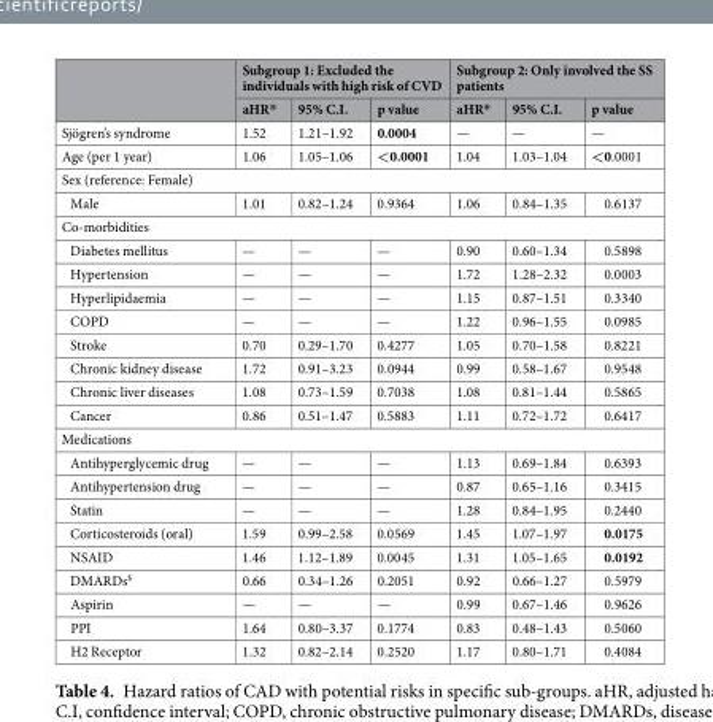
<table><thead><tr><td rowspan="2"></td><td colspan="3">Subgroup 1: Excluded the individuals with high risk of CVD</td><td colspan="3">Subgroup 2: Only involved the SS patients</td></tr><tr><td>aHR*</td><td>95% C.I.</td><td>p value</td><td>aHR*</td><td>95% C.I.</td><td>p value</td></tr></thead><tbody><tr><td>Sjögren’s syndrome</td><td>1.52</td><td>1.21–1.92</td><td>0.0004</td><td>—</td><td>—</td><td>—</td></tr><tr><td>Age (per 1 year)</td><td>1.06</td><td>1.05–1.06</td><td>&lt;0.0001</td><td>1.04</td><td>1.03–1.04</td><td>&lt;0.0001</td></tr><tr><td colspan="7">Sex (reference: Female)</td></tr><tr><td>Male</td><td>1.01</td><td>0.82–1.24</td><td>0.9364</td><td>1.06</td><td>0.84–1.35</td><td>0.6137</td></tr><tr><td colspan="7">Co-morbidities</td></tr><tr><td>Diabetes mellitus</td><td>—</td><td>—</td><td>—</td><td>0.90</td><td>0.60–1.34</td><td>0.5898</td></tr><tr><td>Hypertension</td><td>—</td><td>—</td><td>—</td><td>1.72</td><td>1.28–2.32</td><td>0.0003</td></tr><tr><td>Hyperlipidaemia</td><td>—</td><td>—</td><td>—</td><td>1.15</td><td>0.87–1.51</td><td>0.3340</td></tr><tr><td>COPD</td><td>—</td><td>—</td><td>—</td><td>1.22</td><td>0.96–1.55</td><td>0.0985</td></tr><tr><td>Stroke</td><td>0.70</td><td>0.29–1.70</td><td>0.4277</td><td>1.05</td><td>0.70–1.58</td><td>0.8221</td></tr><tr><td>Chronic kidney disease</td><td>1.72</td><td>0.91–3.23</td><td>0.0944</td><td>0.99</td><td>0.58–1.67</td><td>0.9548</td></tr><tr><td>Chronic liver diseases</td><td>1.08</td><td>0.73–1.59</td><td>0.7038</td><td>1.08</td><td>0.81–1.44</td><td>0.5865</td></tr><tr><td>Cancer</td><td>0.86</td><td>0.51–1.47</td><td>0.5883</td><td>1.11</td><td>0.72–1.72</td><td>0.6417</td></tr><tr><td colspan="7">Medications</td></tr><tr><td>Antihyperglycemic drug</td><td>—</td><td>—</td><td>—</td><td>1.13</td><td>0.69–1.84</td><td>0.6393</td></tr><tr><td>Antihypertension drug</td><td>—</td><td>—</td><td>—</td><td>0.87</td><td>0.65–1.16</td><td>0.3415</td></tr><tr><td>Statin</td><td>—</td><td>—</td><td>—</td><td>1.28</td><td>0.84–1.95</td><td>0.2440</td></tr><tr><td>Corticosteroids (oral)</td><td>1.59</td><td>0.99–2.58</td><td>0.0569</td><td>1.45</td><td>1.07–1.97</td><td>0.0175</td></tr><tr><td>NSAID</td><td>1.46</td><td>1.12–1.89</td><td>0.0045</td><td>1.31</td><td>1.05–1.65</td><td>0.0192</td></tr><tr><td>DMARDs<sup>$</sup></td><td>0.66</td><td>0.34–1.26</td><td>0.2051</td><td>0.92</td><td>0.66–1.27</td><td>0.5979</td></tr><tr><td>Aspirin</td><td>—</td><td>—</td><td>—</td><td>0.99</td><td>0.67–1.46</td><td>0.9626</td></tr><tr><td>PPI</td><td>1.64</td><td>0.80–3.37</td><td>0.1774</td><td>0.83</td><td>0.48–1.43</td><td>0.5060</td></tr><tr><td>H2 Receptor</td><td>1.32</td><td>0.82–2.14</td><td>0.2520</td><td>1.17</td><td>0.80–1.71</td><td>0.4084</td></tr></tbody></table>